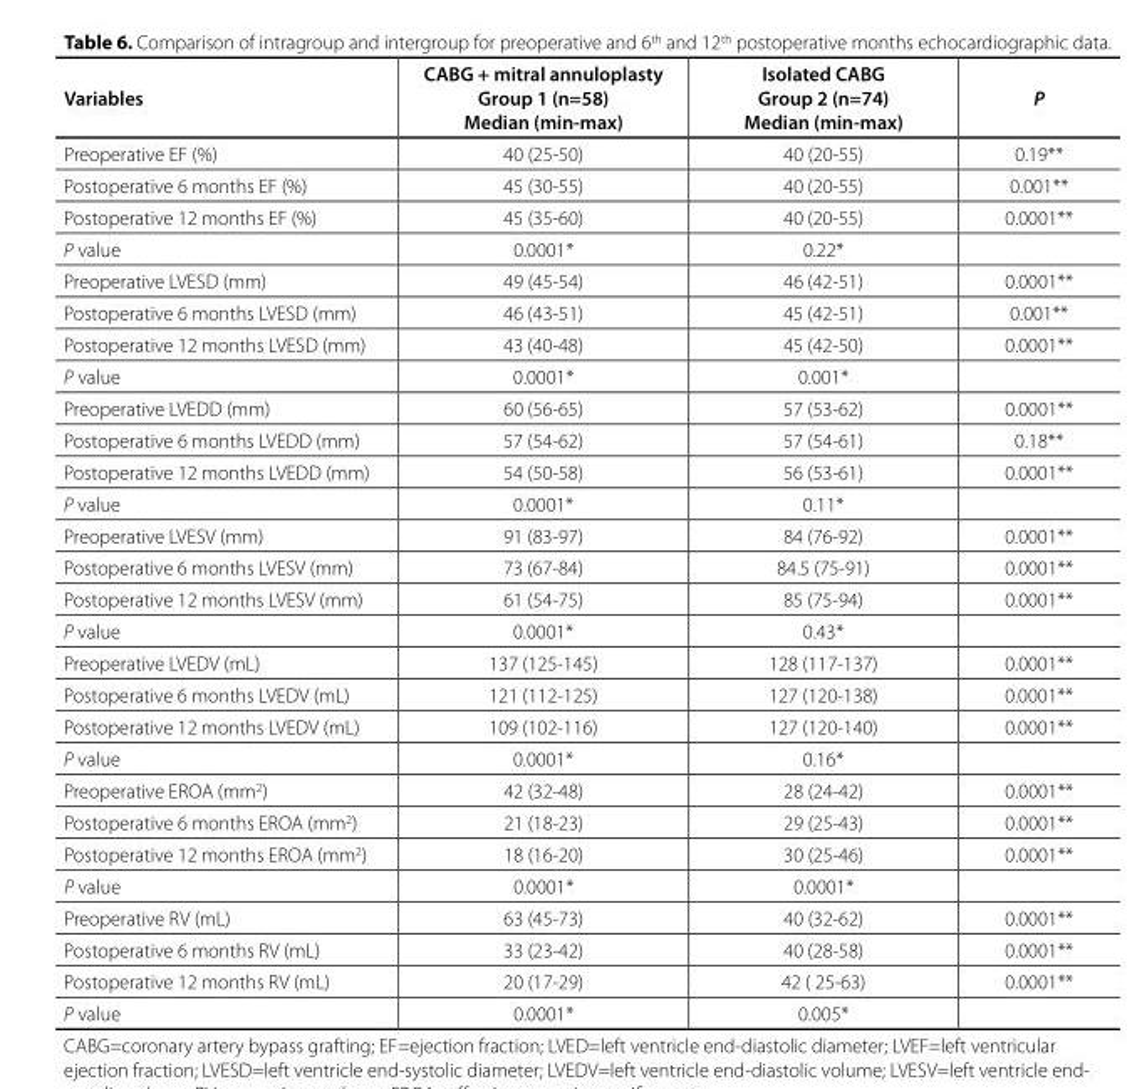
<table><thead><tr><td>Variables</td><td>CABG + mitral annuloplasty Group 1 (n=58) Median (min-max)</td><td>Isolated CABG Group 2 (n=74) Median (min-max)</td><td>P</td></tr></thead><tbody><tr><td>Preoperative EF (%)</td><td>40 (25-50)</td><td>40 (20-55)</td><td>0.19**</td></tr><tr><td>Postoperative 6 months EF (%)</td><td>45 (30-55)</td><td>40 (20-55)</td><td>0.001**</td></tr><tr><td>Postoperative 12 months EF (%)</td><td>45 (35-60)</td><td>40 (20-55)</td><td>0.0001**</td></tr><tr><td>P value</td><td>0.0001*</td><td>0.22*</td><td></td></tr><tr><td>Preoperative LVESD (mm)</td><td>49 (45-54)</td><td>46 (42-51)</td><td>0.0001**</td></tr><tr><td>Postoperative 6 months LVESD (mm)</td><td>46 (43-51)</td><td>45 (42-51)</td><td>0.001**</td></tr><tr><td>Postoperative 12 months LVESD (mm)</td><td>43 (40-48)</td><td>45 (42-50)</td><td>0.0001**</td></tr><tr><td>P value</td><td>0.0001*</td><td>0.001*</td><td></td></tr><tr><td>Preoperative LVEDD (mm)</td><td>60 (56-65)</td><td>57 (53-62)</td><td>0.0001**</td></tr><tr><td>Postoperative 6 months LVEDD (mm)</td><td>57 (54-62)</td><td>57 (54-61)</td><td>0.18**</td></tr><tr><td>Postoperative 12 months LVEDD (mm)</td><td>54 (50-58)</td><td>56 (53-61)</td><td>0.0001**</td></tr><tr><td>P value</td><td>0.0001*</td><td>0.11*</td><td></td></tr><tr><td>Preoperative LVESV (mm)</td><td>91 (83-97)</td><td>84 (76-92)</td><td>0.0001**</td></tr><tr><td>Postoperative 6 months LVESV (mm)</td><td>73 (67-84)</td><td>84.5 (75-91)</td><td>0.0001**</td></tr><tr><td>Postoperative 12 months LVESV (mm)</td><td>61 (54-75)</td><td>85 (75-94)</td><td>0.0001**</td></tr><tr><td>P value</td><td>0.0001*</td><td>0.43*</td><td></td></tr><tr><td>Preoperative LVEDV (mL)</td><td>137 (125-145)</td><td>128 (117-137)</td><td>0.0001**</td></tr><tr><td>Postoperative 6 months LVEDV (mL)</td><td>121 (112-125)</td><td>127 (120-138)</td><td>0.0001**</td></tr><tr><td>Postoperative 12 months LVEDV (mL)</td><td>109 (102-116)</td><td>127 (120-140)</td><td>0.0001**</td></tr><tr><td>P value</td><td>0.0001*</td><td>0.16*</td><td></td></tr><tr><td>Preoperative EROA (mm<sup>2</sup>)</td><td>42 (32-48)</td><td>28 (24-42)</td><td>0.0001**</td></tr><tr><td>Postoperative 6 months EROA (mm<sup>2</sup>)</td><td>21 (18-23)</td><td>29 (25-43)</td><td>0.0001**</td></tr><tr><td>Postoperative 12 months EROA (mm<sup>2</sup>)</td><td>18 (16-20)</td><td>30 (25-46)</td><td>0.0001**</td></tr><tr><td>P value</td><td>0.0001*</td><td>0.0001*</td><td></td></tr><tr><td>Preoperative RV (mL)</td><td>63 (45-73)</td><td>40 (32-62)</td><td>0.0001**</td></tr><tr><td>Postoperative 6 months RV (mL)</td><td>33 (23-42)</td><td>40 (28-58)</td><td>0.0001**</td></tr><tr><td>Postoperative 12 months RV (mL)</td><td>20 (17-29)</td><td>42 ( 25-63)</td><td>0.0001**</td></tr><tr><td>P value</td><td>0.0001*</td><td>0.005*</td><td></td></tr></tbody></table>